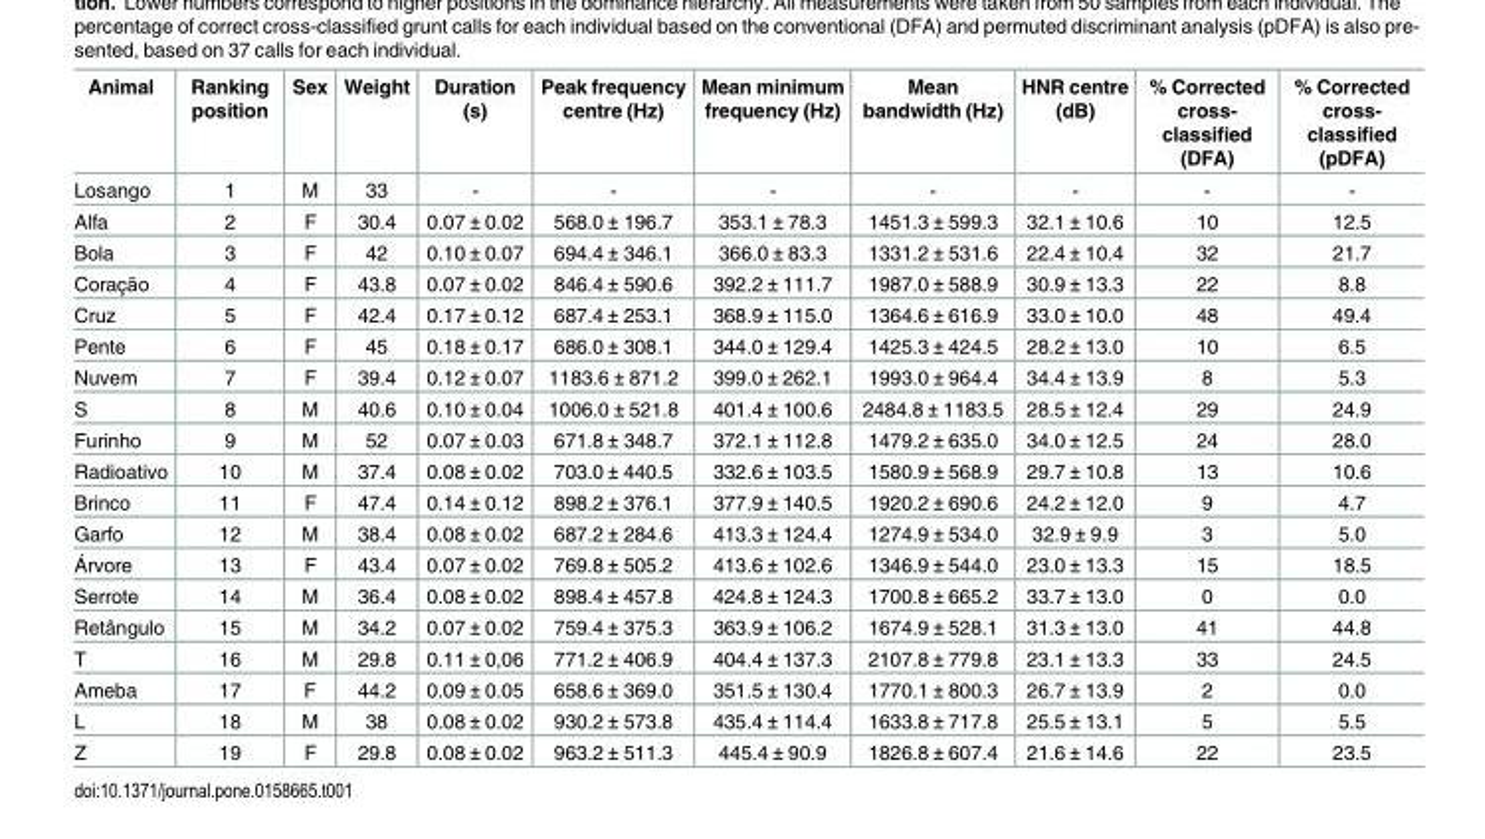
<table><thead><tr><td>Animal</td><td>Ranking position</td><td>Sex</td><td>Weight</td><td>Duration (s)</td><td>Peak frequency centre (Hz)</td><td>Mean minimum frequency (Hz)</td><td>Mean bandwidth (Hz)</td><td>HNR centre (dB)</td><td>% Corrected cross- classified (DFA)</td><td>% Corrected cross- classified (pDFA)</td></tr></thead><tbody><tr><td>Losango</td><td>1</td><td>M</td><td>33</td><td>-</td><td>-</td><td>-</td><td>-</td><td>-</td><td>-</td><td>-</td></tr><tr><td>Alfa</td><td>2</td><td>F</td><td>30.4</td><td>0.07 ± 0.02</td><td>568.0 ± 196.7</td><td>353.1 ± 78.3</td><td>1451.3 ± 599.3</td><td>32.1 ± 10.6</td><td>10</td><td>12.5</td></tr><tr><td>Bola</td><td>3</td><td>F</td><td>42</td><td>0.10 ± 0.07</td><td>694.4 ± 346.1</td><td>366.0 ± 83.3</td><td>1331.2 ± 531.6</td><td>22.4 ± 10.4</td><td>32</td><td>21.7</td></tr><tr><td>Coração</td><td>4</td><td>F</td><td>43.8</td><td>0.07 ± 0.02</td><td>846.4 ± 590.6</td><td>392.2 ± 111.7</td><td>1987.0 ± 588.9</td><td>30.9 ± 13.3</td><td>22</td><td>8.8</td></tr><tr><td>Cruz</td><td>5</td><td>F</td><td>42.4</td><td>0.17 ± 0.12</td><td>687.4 ± 253.1</td><td>368.9 ± 115.0</td><td>1364.6 ± 616.9</td><td>33.0 ± 10.0</td><td>48</td><td>49.4</td></tr><tr><td>Pente</td><td>6</td><td>F</td><td>45</td><td>0.18 ± 0.17</td><td>686.0 ± 308.1</td><td>344.0 ± 129.4</td><td>1425.3 ± 424.5</td><td>28.2 ± 13.0</td><td>10</td><td>6.5</td></tr><tr><td>Nuvem</td><td>7</td><td>F</td><td>39.4</td><td>0.12 ± 0.07</td><td>1183.6 ± 871.2</td><td>399.0 ± 262.1</td><td>1993.0 ± 964.4</td><td>34.4 ± 13.9</td><td>8</td><td>5.3</td></tr><tr><td>S</td><td>8</td><td>M</td><td>40.6</td><td>0.10 ± 0.04</td><td>1006.0 ± 521.8</td><td>401.4 ± 100.6</td><td>2484.8 ± 1183.5</td><td>28.5 ± 12.4</td><td>29</td><td>24.9</td></tr><tr><td>Furinho</td><td>9</td><td>M</td><td>52</td><td>0.07 ± 0.03</td><td>671.8 ± 348.7</td><td>372.1 ± 112.8</td><td>1479.2 ± 635.0</td><td>34.0 ± 12.5</td><td>24</td><td>28.0</td></tr><tr><td>Radioativo</td><td>10</td><td>M</td><td>37.4</td><td>0.08 ± 0.02</td><td>703.0 ± 440.5</td><td>332.6 ± 103.5</td><td>1580.9 ± 568.9</td><td>29.7 ± 10.8</td><td>13</td><td>10.6</td></tr><tr><td>Brinco</td><td>11</td><td>F</td><td>47.4</td><td>0.14 ± 0.12</td><td>898.2 ± 376.1</td><td>377.9 ± 140.5</td><td>1920.2 ± 690.6</td><td>24.2 ± 12.0</td><td>9</td><td>4.7</td></tr><tr><td>Garfo</td><td>12</td><td>M</td><td>38.4</td><td>0.08 ± 0.02</td><td>687.2 ± 284.6</td><td>413.3 ± 124.4</td><td>1274.9 ± 534.0</td><td>32.9 ± 9.9</td><td>3</td><td>5.0</td></tr><tr><td>Árvore</td><td>13</td><td>F</td><td>43.4</td><td>0.07 ± 0.02</td><td>769.8 ± 505.2</td><td>413.6 ± 102.6</td><td>1346.9 ± 544.0</td><td>23.0 ± 13.3</td><td>15</td><td>18.5</td></tr><tr><td>Serrote</td><td>14</td><td>M</td><td>36.4</td><td>0.08 ± 0.02</td><td>898.4 ± 457.8</td><td>424.8 ± 124.3</td><td>1700.8 ± 665.2</td><td>33.7 ± 13.0</td><td>0</td><td>0.0</td></tr><tr><td>Retângulo</td><td>15</td><td>M</td><td>34.2</td><td>0.07 ± 0.02</td><td>759.4 ± 375.3</td><td>363.9 ± 106.2</td><td>1674.9 ± 528.1</td><td>31.3 ± 13.0</td><td>41</td><td>44.8</td></tr><tr><td>T</td><td>16</td><td>M</td><td>29.8</td><td>0.11 ± 0,06</td><td>771.2 ± 406.9</td><td>404.4 ± 137.3</td><td>2107.8 ± 779.8</td><td>23.1 ± 13.3</td><td>33</td><td>24.5</td></tr><tr><td>Ameba</td><td>17</td><td>F</td><td>44.2</td><td>0.09 ± 0.05</td><td>658.6 ± 369.0</td><td>351.5 ± 130.4</td><td>1770.1 ± 800.3</td><td>26.7 ± 13.9</td><td>2</td><td>0.0</td></tr><tr><td>L</td><td>18</td><td>M</td><td>38</td><td>0.08 ± 0.02</td><td>930.2 ± 573.8</td><td>435.4 ± 114.4</td><td>1633.8 ± 717.8</td><td>25.5 ± 13.1</td><td>5</td><td>5.5</td></tr><tr><td>Z</td><td>19</td><td>F</td><td>29.8</td><td>0.08 ± 0.02</td><td>963.2 ± 511.3</td><td>445.4 ± 90.9</td><td>1826.8 ± 607.4</td><td>21.6 ± 14.6</td><td>22</td><td>23.5</td></tr></tbody></table>